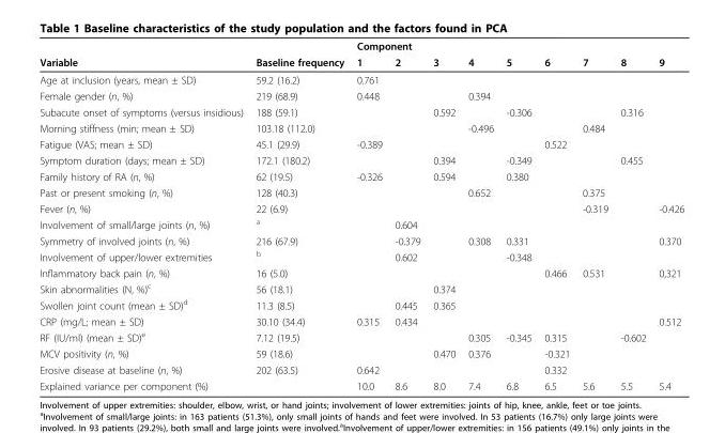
<table><thead><tr><td rowspan="2">Variable</td><td rowspan="2">Baseline frequency</td><td colspan="9">Component</td></tr><tr><td>1</td><td>2</td><td>3</td><td>4</td><td>5</td><td>6</td><td>7</td><td>8</td><td>9</td></tr></thead><tbody><tr><td>Age at inclusion (years, mean ± SD)</td><td>59.2 (16.2)</td><td>0.761</td><td></td><td></td><td></td><td></td><td></td><td></td><td></td><td></td></tr><tr><td>Female gender (n, %)</td><td>219 (68.9)</td><td>0.448</td><td></td><td></td><td>0.394</td><td></td><td></td><td></td><td></td><td></td></tr><tr><td>Subacute onset of symptoms (versus insidious)</td><td>188 (59.1)</td><td></td><td></td><td>0.592</td><td></td><td>-0.306</td><td></td><td></td><td>0.316</td><td></td></tr><tr><td>Morning stiffness (min; mean ± SD)</td><td>103.18 (112.0)</td><td></td><td></td><td></td><td>-0.496</td><td></td><td></td><td>0.484</td><td></td><td></td></tr><tr><td>Fatigue (VAS; mean ± SD)</td><td>45.1 (29.9)</td><td>-0.389</td><td></td><td></td><td></td><td></td><td>0.522</td><td></td><td></td><td></td></tr><tr><td>Symptom duration (days; mean ± SD)</td><td>172.1 (180.2)</td><td></td><td></td><td>0.394</td><td></td><td>-0.349</td><td></td><td></td><td>0.455</td><td></td></tr><tr><td>Family history of RA (n, %)</td><td>62 (19.5)</td><td>-0.326</td><td></td><td>0.594</td><td></td><td>0.380</td><td></td><td></td><td></td><td></td></tr><tr><td>Past or present smoking (n, %)</td><td>128 (40.3)</td><td></td><td></td><td></td><td>0.652</td><td></td><td></td><td>0.375</td><td></td><td></td></tr><tr><td>Fever (n, %)</td><td>22 (6.9)</td><td></td><td></td><td></td><td></td><td></td><td></td><td>-0.319</td><td></td><td>-0.426</td></tr><tr><td>Involvement of small/large joints (n, %)</td><td><sup>a</sup></td><td></td><td>0.604</td><td></td><td></td><td></td><td></td><td></td><td></td><td></td></tr><tr><td>Symmetry of involved joints (n, %)</td><td>216 (67.9)</td><td></td><td>-0.379</td><td></td><td>0.308</td><td>0.331</td><td></td><td></td><td></td><td>0.370</td></tr><tr><td>Involvement of upper/lower extremities</td><td><sup>b</sup></td><td></td><td>0.602</td><td></td><td></td><td>-0.348</td><td></td><td></td><td></td><td></td></tr><tr><td>Inflammatory back pain (n, %)</td><td>16 (5.0)</td><td></td><td></td><td></td><td></td><td></td><td>0.466</td><td>0.531</td><td></td><td>0,321</td></tr><tr><td>Skin abnormalities (N, %)<sup>c</sup></td><td>56 (18.1)</td><td></td><td></td><td>0.374</td><td></td><td></td><td></td><td></td><td></td><td></td></tr><tr><td>Swollen joint count (mean ± SD)<sup>d</sup></td><td>11.3 (8.5)</td><td></td><td>0.445</td><td>0.365</td><td></td><td></td><td></td><td></td><td></td><td></td></tr><tr><td>CRP (mg/L; mean ± SD)</td><td>30.10 (34.4)</td><td>0.315</td><td>0.434</td><td></td><td></td><td></td><td></td><td></td><td></td><td>0.512</td></tr><tr><td>RF (IU/ml) (mean ± SD)<sup>e</sup></td><td>7.12 (19.5)</td><td></td><td></td><td></td><td>0.305</td><td>-0.345</td><td>0.315</td><td></td><td>-0.602</td><td></td></tr><tr><td>MCV positivity (n, %)</td><td>59 (18.6)</td><td></td><td></td><td>0.470</td><td>0.376</td><td></td><td>-0.321</td><td></td><td></td><td></td></tr><tr><td>Erosive disease at baseline (n, %)</td><td>202 (63.5)</td><td>0.642</td><td></td><td></td><td></td><td></td><td>0.332</td><td></td><td></td><td></td></tr><tr><td>Explained variance per component (%)</td><td></td><td>10.0</td><td>8.6</td><td>8.0</td><td>7.4</td><td>6.8</td><td>6.5</td><td>5.6</td><td>5.5</td><td>5.4</td></tr></tbody></table>